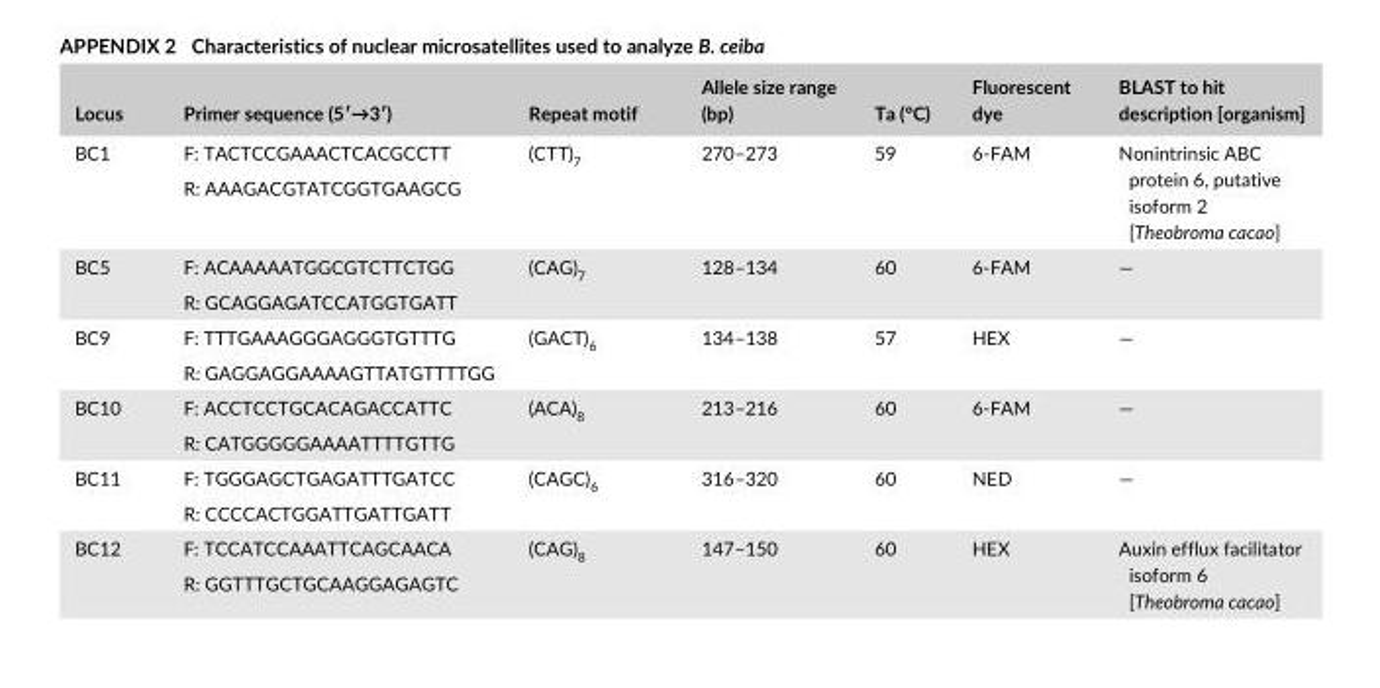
<table><thead><tr><td>Locus</td><td>Primer sequence (5′→3′)</td><td>Repeat motif</td><td>Allele size range (bp)</td><td>Ta (°C)</td><td>Fluorescent dye</td><td>BLAST to hit description [organism]</td></tr></thead><tbody><tr><td rowspan="2">BC1</td><td>F: TACTCCGAAACTCACGCCTT</td><td rowspan="2">(CTT)<sub>7</sub></td><td rowspan="2">270–273</td><td rowspan="2">59</td><td rowspan="2">6- FAM</td><td rowspan="2">Nonintrinsic ABC protein 6, putative isoform 2 [Theobroma cacao]</td></tr><tr><td>R: AAAGACGTATCGGTGAAGCG</td></tr><tr><td rowspan="2">BC5</td><td>F: ACAAAAATGGCGTCTTCTGG</td><td rowspan="2">(CAG)<sub>7</sub></td><td rowspan="2">128–134</td><td rowspan="2">60</td><td rowspan="2">6- FAM</td><td rowspan="2">—</td></tr><tr><td>R: GCAGGAGATCCATGGTGATT</td></tr><tr><td rowspan="2">BC9</td><td>F: TTTGAAAGGGAGGGTGTTTG</td><td rowspan="2">(GACT)<sub>6</sub></td><td rowspan="2">134–138</td><td rowspan="2">57</td><td rowspan="2">HEX</td><td rowspan="2">—</td></tr><tr><td>R: GAGGAGGAAAAGTTATGTTTTGG</td></tr><tr><td rowspan="2">BC10</td><td>F: ACCTCCTGCACAGACCATTC</td><td rowspan="2">(ACA)<sub>8</sub></td><td rowspan="2">213–216</td><td rowspan="2">60</td><td rowspan="2">6- FAM</td><td rowspan="2">—</td></tr><tr><td>R: CATGGGGGAAAATTTTGTTG</td></tr><tr><td rowspan="2">BC11</td><td>F: TGGGAGCTGAGATTTGATCC</td><td rowspan="2">(CAGC)<sub>6</sub></td><td rowspan="2">316–320</td><td rowspan="2">60</td><td rowspan="2">NED</td><td rowspan="2">—</td></tr><tr><td>R: CCCCACTGGATTGATTGATT</td></tr><tr><td rowspan="2">BC12</td><td>F: TCCATCCAAATTCAGCAACA</td><td rowspan="2">(CAG)<sub>8</sub></td><td rowspan="2">147–150</td><td rowspan="2">60</td><td rowspan="2">HEX</td><td rowspan="2">Auxin efflux facilitator isoform 6 [Theobroma cacao]</td></tr><tr><td>R: GGTTTGCTGCAAGGAGAGTC</td></tr></tbody></table>